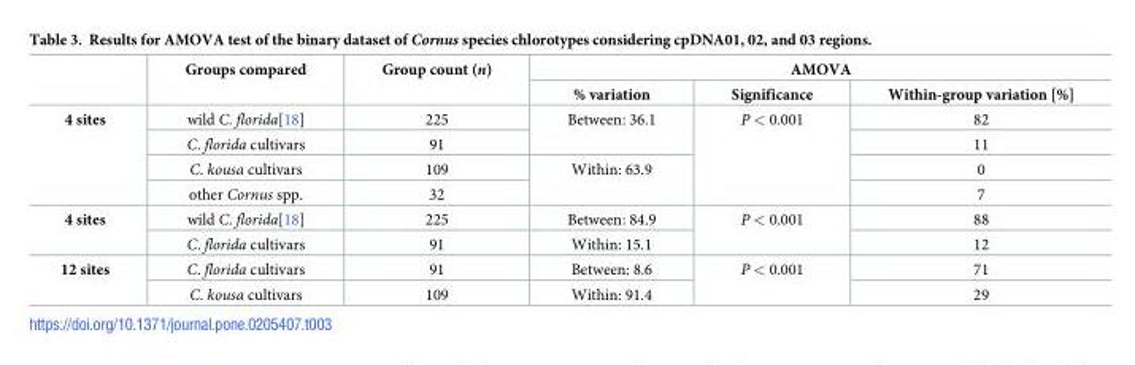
<table><thead><tr><td rowspan="2"></td><td rowspan="2">Groups compared</td><td rowspan="2">Group count (n)</td><td colspan="3">AMOVA</td></tr><tr><td>% variation</td><td>Significance</td><td>Within-group variation [%]</td></tr></thead><tbody><tr><td rowspan="4">4 sites</td><td>wild C. florida[18]</td><td>225</td><td rowspan="2">Between: 36.1</td><td rowspan="4">P &lt; 0.001</td><td>82</td></tr><tr><td>C. florida cultivars</td><td>91</td><td>11</td></tr><tr><td>C. kousa cultivars</td><td>109</td><td rowspan="2">Within: 63.9</td><td>0</td></tr><tr><td>other Cornus spp.</td><td>32</td><td>7</td></tr><tr><td rowspan="2">4 sites</td><td>wild C. florida[18]</td><td>225</td><td>Between: 84.9</td><td rowspan="2">P &lt; 0.001</td><td>88</td></tr><tr><td>C. florida cultivars</td><td>91</td><td>Within: 15.1</td><td>12</td></tr><tr><td rowspan="2">12 sites</td><td>C. florida cultivars</td><td>91</td><td>Between: 8.6</td><td rowspan="2">P &lt; 0.001</td><td>71</td></tr><tr><td>C. kousa cultivars</td><td>109</td><td>Within: 91.4</td><td>29</td></tr></tbody></table>